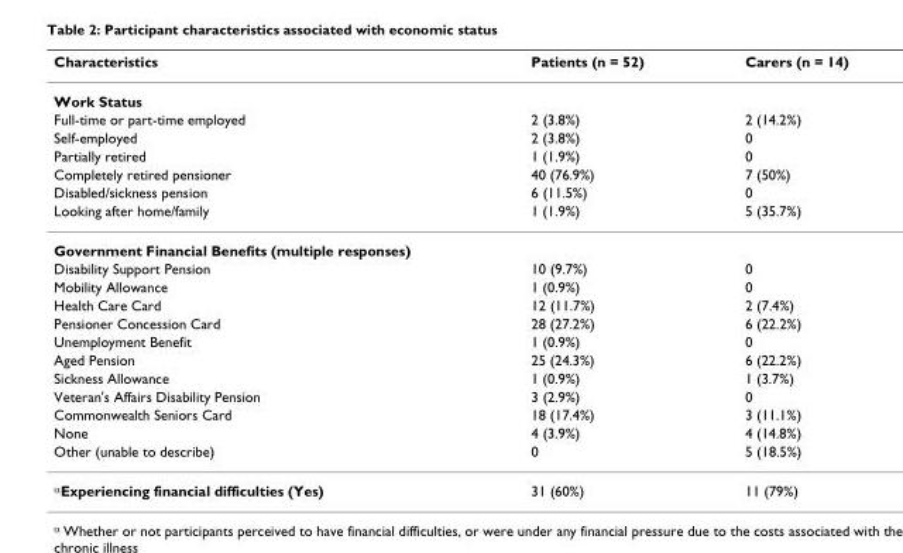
<table><thead><tr><td>Characteristics</td><td>Patients (n = 52)</td><td>Carers (n = 14)</td></tr></thead><tbody><tr><td colspan="3">Work Status</td></tr><tr><td>Full-time or part-time employed</td><td>2 (3.8%)</td><td>2 (14.2%)</td></tr><tr><td>Self-employed</td><td>2 (3.8%)</td><td>0</td></tr><tr><td>Partially retired</td><td>1 (1.9%)</td><td>0</td></tr><tr><td>Completely retired pensioner</td><td>40 (76.9%)</td><td>7 (50%)</td></tr><tr><td>Disabled/sickness pension</td><td>6 (11.5%)</td><td>0</td></tr><tr><td>Looking after home/family</td><td>1 (1.9%)</td><td>5 (35.7%)</td></tr><tr><td colspan="3">Government Financial Benefits (multiple responses)</td></tr><tr><td>Disability Support Pension</td><td>10 (9.7%)</td><td>0</td></tr><tr><td>Mobility Allowance</td><td>1 (0.9%)</td><td>0</td></tr><tr><td>Health Care Card</td><td>12 (11.7%)</td><td>2 (7.4%)</td></tr><tr><td>Pensioner Concession Card</td><td>28 (27.2%)</td><td>6 (22.2%)</td></tr><tr><td>Unemployment Benefit</td><td>1 (0.9%)</td><td>0</td></tr><tr><td>Aged Pension</td><td>25 (24.3%)</td><td>6 (22.2%)</td></tr><tr><td>Sickness Allowance</td><td>1 (0.9%)</td><td>1 (3.7%)</td></tr><tr><td>Veteran&#x27;s Affairs Disability Pension</td><td>3 (2.9%)</td><td>0</td></tr><tr><td>Commonwealth Seniors Card</td><td>18 (17.4%)</td><td>3 (11.1%)</td></tr><tr><td>None</td><td>4 (3.9%)</td><td>4 (14.8%)</td></tr><tr><td>Other (unable to describe)</td><td>0</td><td>5 (18.5%)</td></tr><tr><td><sup>α</sup>Experiencing financial difficulties (Yes)</td><td>31 (60%)</td><td>11 (79%)</td></tr></tbody></table>